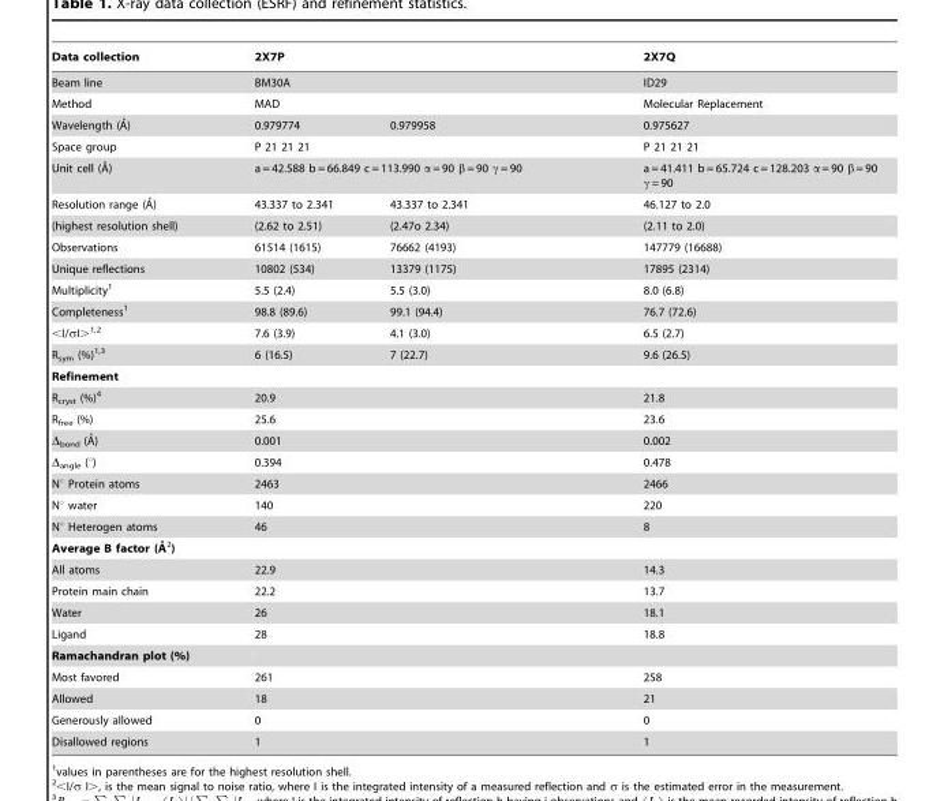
<table><thead><tr><td rowspan="4">Data collection Beam line Method Wavelength (A˚)</td><td rowspan="3" colspan="2">2X7P BM30A MAD</td><td rowspan="4">2X7Q ID29 Molecular Replacement 0.975627</td></tr><tr></tr><tr></tr><tr><td>0.979774</td><td>0.979958</td></tr></thead><tbody><tr><td>Space group</td><td colspan="2">P 21 21 21</td><td>P 21 21 21</td></tr><tr><td>Unit cell (A˚)</td><td colspan="2">a = 42.588 b = 66.849 c = 113.990 α = 90 β = 90 γ = 90</td><td>a = 41.411 b = 65.724 c = 128.203 α = 90 β = 90 γ = 90</td></tr><tr><td>Resolution range (A˚)</td><td>43.337 to 2.341</td><td>43.337 to 2.341</td><td>46.127 to 2.0</td></tr><tr><td>(highest resolution shell)</td><td>(2.62 to 2.51)</td><td>(2.47o 2.34)</td><td>(2.11 to 2.0)</td></tr><tr><td>Observations</td><td>61514 (1615)</td><td>76662 (4193)</td><td>147779 (16688)</td></tr><tr><td>Unique reflections</td><td>10802 (534)</td><td>13379 (1175)</td><td>17895 (2314)</td></tr><tr><td>Multiplicity<sup>1</sup></td><td>5.5 (2.4)</td><td>5.5 (3.0)</td><td>8.0 (6.8)</td></tr><tr><td>Completeness<sup>1</sup></td><td>98.8 (89.6)</td><td>99.1 (94.4)</td><td>76.7 (72.6)</td></tr><tr><td>&lt;I/σI&gt;<sup>1,</sup>2</td><td>7.6 (3.9)</td><td>4.1 (3.0)</td><td>6.5 (2.7)</td></tr><tr><td>R<sub>sym</sub> (%)<sup>1,</sup>3</td><td>6 (16.5)</td><td>7 (22.7)</td><td>9.6 (26.5)</td></tr><tr><td colspan="4">Refinement</td></tr><tr><td>R<sub>cryst</sub> (%)<sup>4</sup></td><td colspan="2">20.9</td><td>21.8</td></tr><tr><td>R<sub>free</sub> (%)</td><td colspan="2">25.6</td><td>23.6</td></tr><tr><td>Dbond (A˚)</td><td colspan="2">0.001</td><td>0.002</td></tr><tr><td>Δ<sub>angle</sub> (°)</td><td colspan="2">0.394</td><td>0.478</td></tr><tr><td>N° Protein atoms</td><td colspan="2">2463</td><td>2466</td></tr><tr><td>N° water</td><td colspan="2">140</td><td>220</td></tr><tr><td>N° Heterogen atoms</td><td colspan="2">46</td><td>8</td></tr><tr><td colspan="4">Average B factor (A˚ 2)</td></tr><tr><td>All atoms</td><td colspan="2">22.9</td><td>14.3</td></tr><tr><td>Protein main chain</td><td colspan="2">22.2</td><td>13.7</td></tr><tr><td>Water</td><td colspan="2">26</td><td>18.1</td></tr><tr><td>Ligand</td><td colspan="2">28</td><td>18.8</td></tr><tr><td colspan="4">Ramachandran plot (%)</td></tr><tr><td>Most favored</td><td colspan="2">261</td><td>258</td></tr><tr><td>Allowed</td><td colspan="2">18</td><td>21</td></tr><tr><td>Generously allowed</td><td colspan="2">0</td><td>0</td></tr><tr><td>Disallowed regions</td><td colspan="2">1</td><td>1</td></tr></tbody></table>